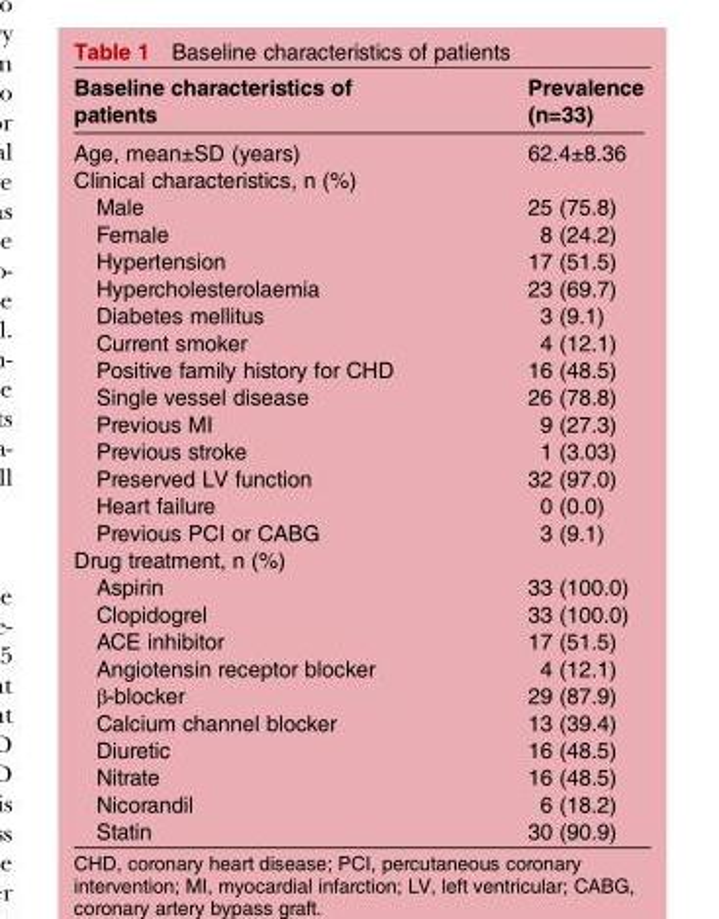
<table><thead><tr><td>Baseline characteristics of patients</td><td>Prevalence (n=33)</td></tr></thead><tbody><tr><td>Age, mean±SD (years)</td><td>62.4±8.36</td></tr><tr><td colspan="2">Clinical characteristics, n (%)</td></tr><tr><td>Male</td><td>25 (75.8)</td></tr><tr><td>Female</td><td>8 (24.2)</td></tr><tr><td>Hypertension</td><td>17 (51.5)</td></tr><tr><td>Hypercholesterolaemia</td><td>23 (69.7)</td></tr><tr><td>Diabetes mellitus</td><td>3 (9.1)</td></tr><tr><td>Current smoker</td><td>4 (12.1)</td></tr><tr><td>Positive family history for CHD</td><td>16 (48.5)</td></tr><tr><td>Single vessel disease</td><td>26 (78.8)</td></tr><tr><td>Previous MI</td><td>9 (27.3)</td></tr><tr><td>Previous stroke</td><td>1 (3.03)</td></tr><tr><td>Preserved LV function</td><td>32 (97.0)</td></tr><tr><td>Heart failure</td><td>0 (0.0)</td></tr><tr><td>Previous PCI or CABG</td><td>3 (9.1)</td></tr><tr><td colspan="2">Drug treatment, n (%)</td></tr><tr><td>Aspirin</td><td>33 (100.0)</td></tr><tr><td>Clopidogrel</td><td>33 (100.0)</td></tr><tr><td>ACE inhibitor</td><td>17 (51.5)</td></tr><tr><td>Angiotensin receptor blocker</td><td>4 (12.1)</td></tr><tr><td>β-blocker</td><td>29 (87.9)</td></tr><tr><td>Calcium channel blocker</td><td>13 (39.4)</td></tr><tr><td>Diuretic</td><td>16 (48.5)</td></tr><tr><td>Nitrate</td><td>16 (48.5)</td></tr><tr><td>Nicorandil</td><td>6 (18.2)</td></tr><tr><td>Statin</td><td>30 (90.9)</td></tr></tbody></table>